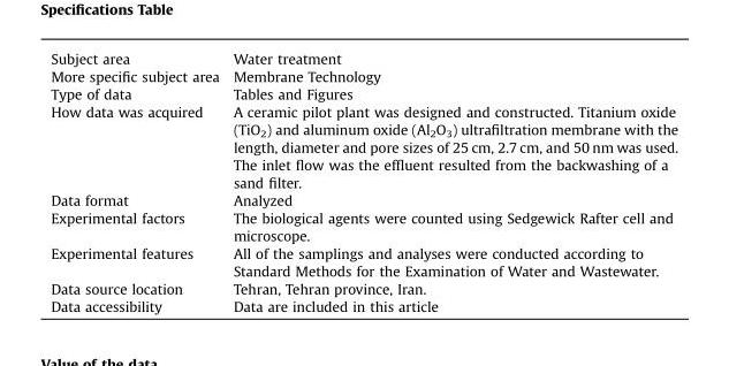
<table><tbody><tr><td>Subject area</td><td>Water treatment</td></tr><tr><td>More specific subject area</td><td>Membrane Technology</td></tr><tr><td>Type of data</td><td>Tables and Figures</td></tr><tr><td>How data was acquired</td><td>A ceramic pilot plant was designed and constructed. Titanium oxide (TiO<sub>2</sub>) and aluminum oxide (Al<sub>2</sub>O<sub>3</sub>) ultrafiltration membrane with the length, diameter and pore sizes of 25 cm, 2.7 cm, and 50 nm was used. The inlet flow was the effluent resulted from the backwashing of a sand filter.</td></tr><tr><td>Data format</td><td>Analyzed</td></tr><tr><td>Experimental factors</td><td>The biological agents were counted using Sedgewick Rafter cell and microscope.</td></tr><tr><td>Experimental features</td><td>All of the samplings and analyses were conducted according to Standard Methods for the Examination of Water and Wastewater.</td></tr><tr><td>Data source location</td><td>Tehran, Tehran province, Iran.</td></tr><tr><td>Data accessibility</td><td>Data are included in this article</td></tr></tbody></table>